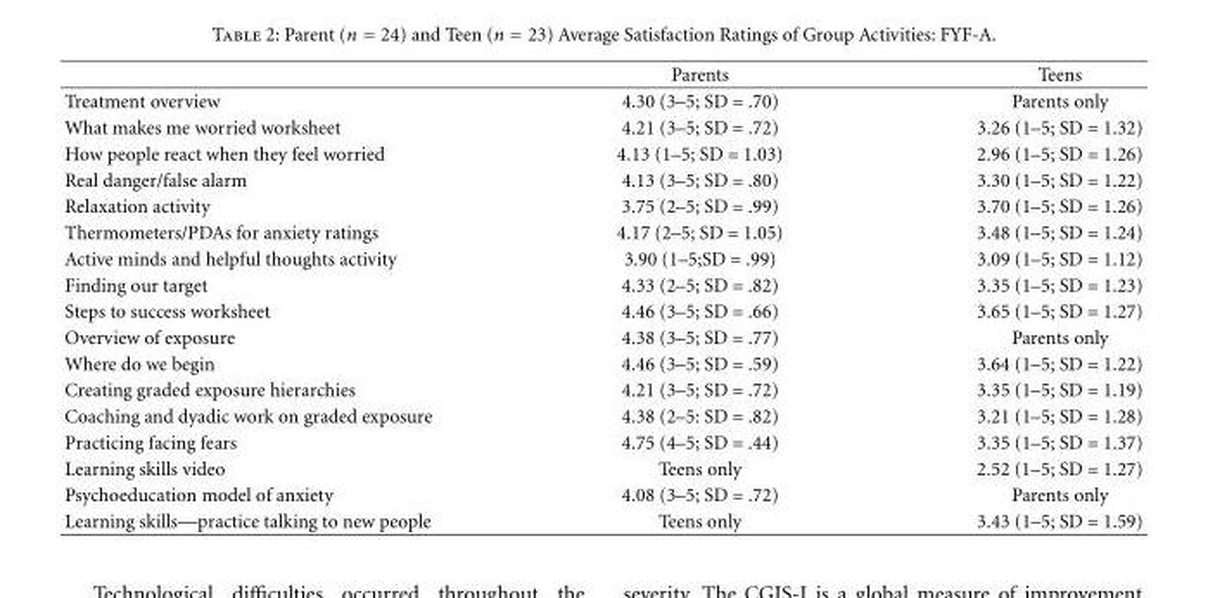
<table><thead><tr><td></td><td>Parents</td><td>Teens</td></tr></thead><tbody><tr><td>Treatment overview</td><td>4.30 (3–5; SD = .70)</td><td>Parents only</td></tr><tr><td>What makes me worried worksheet</td><td>4.21 (3–5; SD = .72)</td><td>3.26 (1–5; SD = 1.32)</td></tr><tr><td>How people react when they feel worried</td><td>4.13 (1–5; SD = 1.03)</td><td>2.96 (1–5; SD = 1.26)</td></tr><tr><td>Real danger/false alarm</td><td>4.13 (3–5; SD = .80)</td><td>3.30 (1–5; SD = 1.22)</td></tr><tr><td>Relaxation activity</td><td>3.75 (2–5; SD = .99)</td><td>3.70 (1–5; SD = 1.26)</td></tr><tr><td>Thermometers/PDAs for anxiety ratings</td><td>4.17 (2–5; SD = 1.05)</td><td>3.48 (1–5; SD = 1.24)</td></tr><tr><td>Active minds and helpful thoughts activity</td><td>3.90 (1–5;SD = .99)</td><td>3.09 (1–5; SD = 1.12)</td></tr><tr><td>Finding our target</td><td>4.33 (2–5; SD = .82)</td><td>3.35 (1–5; SD = 1.23)</td></tr><tr><td>Steps to success worksheet</td><td>4.46 (3–5; SD = .66)</td><td>3.65 (1–5; SD = 1.27)</td></tr><tr><td>Overview of exposure</td><td>4.38 (3–5; SD = .77)</td><td>Parents only</td></tr><tr><td>Where do we begin</td><td>4.46 (3–5; SD = .59)</td><td>3.64 (1–5; SD = 1.22)</td></tr><tr><td>Creating graded exposure hierarchies</td><td>4.21 (3–5; SD = .72)</td><td>3.35 (1–5; SD = 1.19)</td></tr><tr><td>Coaching and dyadic work on graded exposure</td><td>4.38 (2–5: SD = .82)</td><td>3.21 (1–5; SD = 1.28)</td></tr><tr><td>Practicing facing fears</td><td>4.75 (4–5; SD = .44)</td><td>3.35 (1–5; SD = 1.37)</td></tr><tr><td>Learning skills video</td><td>Teens only</td><td>2.52 (1–5; SD = 1.27)</td></tr><tr><td>Psychoeducation model of anxiety</td><td>4.08 (3–5; SD = .72)</td><td>Parents only</td></tr><tr><td>Learning skills—practice talking to new people</td><td>Teens only</td><td>3.43 (1–5; SD = 1.59)</td></tr></tbody></table>